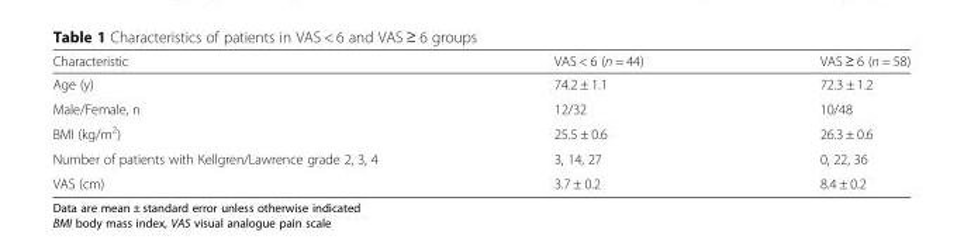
<table><thead><tr><td>Characteristic</td><td>VAS &lt; 6 (n = 44)</td><td>VAS ≥ 6 (n = 58)</td></tr></thead><tbody><tr><td>Age (y)</td><td>74.2 ± 1.1</td><td>72.3 ± 1.2</td></tr><tr><td>Male/Female, n</td><td>12/32</td><td>10/48</td></tr><tr><td>BMI (kg/m<sup>2</sup>)</td><td>25.5 ± 0.6</td><td>26.3 ± 0.6</td></tr><tr><td>Number of patients with Kellgren/Lawrence grade 2, 3, 4</td><td>3, 14, 27</td><td>0, 22, 36</td></tr><tr><td>VAS (cm)</td><td>3.7 ± 0.2</td><td>8.4 ± 0.2</td></tr></tbody></table>